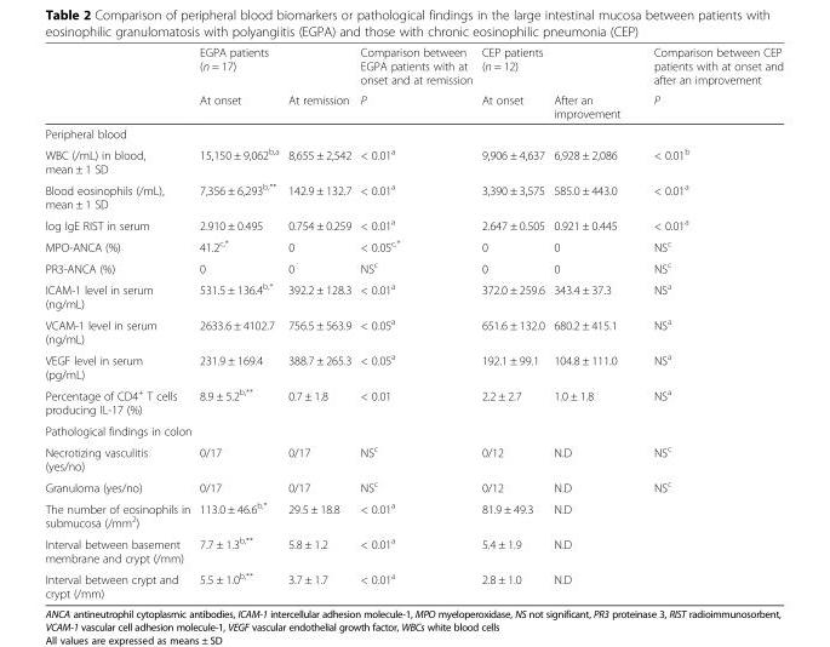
<table><thead><tr><td rowspan="2"></td><td rowspan="2">EGPA patients (n = 17) At onset</td><td rowspan="2">At remission</td><td rowspan="2">Comparison between EGPA patients with at onset and at remission P</td><td rowspan="2">CEP patients (n = 12) At onset</td><td rowspan="2">After an improvement</td><td rowspan="2">Comparison between CEP patients with at onset and after an improvement P</td></tr><tr></tr></thead><tbody><tr><td colspan="7">Peripheral blood</td></tr><tr><td>WBC (/mL) in blood, mean ± 1 SD</td><td>15,150 ± 9,062<sup>b,a</sup></td><td>8,655 ± 2,542</td><td>&lt; 0.01<sup>a</sup></td><td>9,906 ± 4,637</td><td>6,928 ± 2,086</td><td>&lt; 0.01<sup>b</sup></td></tr><tr><td>Blood eosinophils (/mL), mean ± 1 SD</td><td>7,356 ± 6,293<sup>b,**</sup></td><td>142.9 ± 132.7</td><td>&lt; 0.01<sup>a</sup></td><td>3,390 ± 3,575</td><td>585.0 ± 443.0</td><td>&lt; 0.01<sup>a</sup></td></tr><tr><td>log IgE RIST in serum</td><td>2.910 ± 0.495</td><td>0.754 ± 0.259</td><td>&lt; 0.01<sup>a</sup></td><td>2.647 ± 0.505</td><td>0.921 ± 0.445</td><td>&lt; 0.01<sup>a</sup></td></tr><tr><td>MPO-ANCA (%)</td><td>41.2<sup>c,*</sup></td><td>0</td><td>&lt; 0.05<sup>c,*</sup></td><td>0</td><td>0</td><td>NS<sup>c</sup></td></tr><tr><td>PR3-ANCA (%)</td><td>0</td><td>0</td><td>NS<sup>c</sup></td><td>0</td><td>0</td><td>NS<sup>c</sup></td></tr><tr><td>ICAM-1 level in serum (ng/mL)</td><td>531.5 ± 136.4<sup>b,*</sup></td><td>392.2 ± 128.3</td><td>&lt; 0.01<sup>a</sup></td><td>372.0 ± 259.6</td><td>343.4 ± 37.3</td><td>NS<sup>a</sup></td></tr><tr><td>VCAM-1 level in serum (ng/mL)</td><td>2633.6 ± 4102.7</td><td>756.5 ± 563.9</td><td>&lt; 0.05<sup>a</sup></td><td>651.6 ± 132.0</td><td>680.2 ± 415.1</td><td>NS<sup>a</sup></td></tr><tr><td>VEGF level in serum (pg/mL)</td><td>231.9 ± 169.4</td><td>388.7 ± 265.3</td><td>&lt; 0.05<sup>a</sup></td><td>192.1 ± 99.1</td><td>104.8 ± 111.0</td><td>NS<sup>a</sup></td></tr><tr><td>Percentage of CD4<sup>+</sup> T cells producing IL-17 (%)</td><td>8.9 ± 5.2<sup>b,**</sup></td><td>0.7 ± 1.8</td><td>&lt; 0.01</td><td>2.2 ± 2.7</td><td>1.0 ± 1.8</td><td>NS<sup>a</sup></td></tr><tr><td colspan="7">Pathological findings in colon</td></tr><tr><td>Necrotizing vasculitis (yes/no)</td><td>0/17</td><td>0/17</td><td>NS<sup>c</sup></td><td>0/12</td><td>N.D</td><td>NS<sup>c</sup></td></tr><tr><td>Granuloma (yes/no)</td><td>0/17</td><td>0/17</td><td>NS<sup>c</sup></td><td>0/12</td><td>N.D</td><td>NS<sup>c</sup></td></tr><tr><td>The number of eosinophils in submucosa (/mm<sup>2</sup>)</td><td>113.0 ± 46.6<sup>b,*</sup></td><td>29.5 ± 18.8</td><td>&lt; 0.01<sup>a</sup></td><td>81.9 ± 49.3</td><td>N.D</td><td></td></tr><tr><td>Interval between basement membrane and crypt (/mm)</td><td>7.7 ± 1.3<sup>b,**</sup></td><td>5.8 ± 1.2</td><td>&lt; 0.01<sup>a</sup></td><td>5.4 ± 1.9</td><td>N.D</td><td></td></tr><tr><td>Interval between crypt and crypt (/mm)</td><td>5.5 ± 1.0<sup>b,**</sup></td><td>3.7 ± 1.7</td><td>&lt; 0.01<sup>a</sup></td><td>2.8 ± 1.0</td><td>N.D</td><td></td></tr></tbody></table>